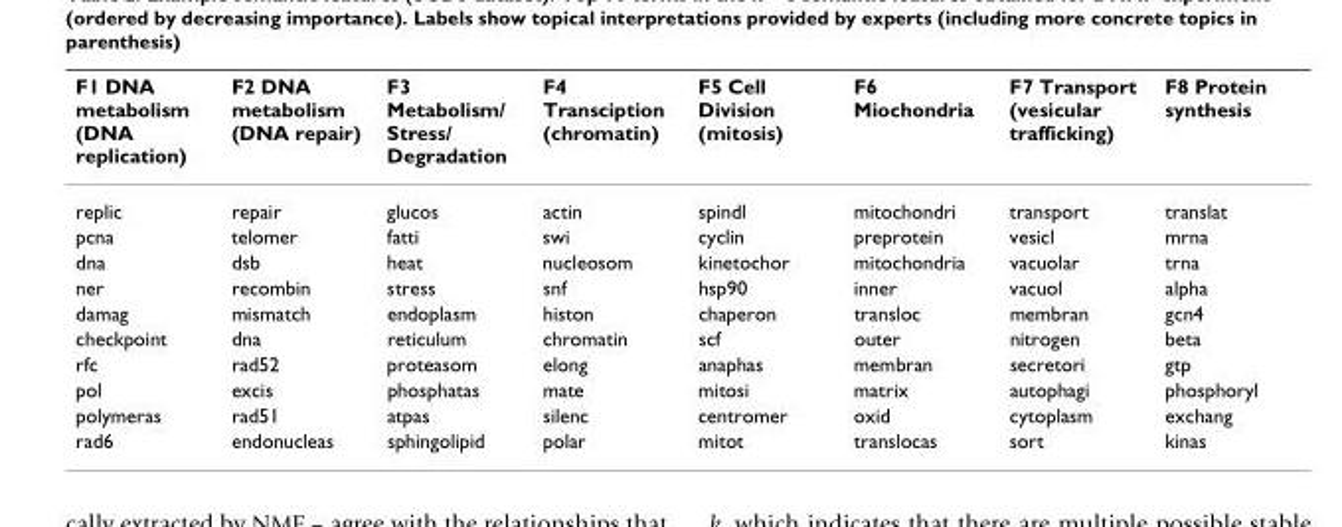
<table><thead><tr><td>F1 DNA metabolism (DNA replication)</td><td>F2 DNA metabolism (DNA repair)</td><td>F3 Metabolism/ Stress/ Degradation</td><td>F4 Transciption (chromatin)</td><td>F5 Cell Division (mitosis)</td><td>F6 Miochondria</td><td>F7 Transport (vesicular trafficking)</td><td>F8 Protein synthesis</td></tr></thead><tbody><tr><td>replic</td><td>repair</td><td>glucos</td><td>actin</td><td>spindl</td><td>mitochondri</td><td>transport</td><td>translat</td></tr><tr><td>pcna</td><td>telomer</td><td>fatti</td><td>swi</td><td>cyclin</td><td>preprotein</td><td>vesicl</td><td>mrna</td></tr><tr><td>dna</td><td>dsb</td><td>heat</td><td>nucleosom</td><td>kinetochor</td><td>mitochondria</td><td>vacuolar</td><td>trna</td></tr><tr><td>ner</td><td>recombin</td><td>stress</td><td>snf</td><td>hsp90</td><td>inner</td><td>vacuol</td><td>alpha</td></tr><tr><td>damag</td><td>mismatch</td><td>endoplasm</td><td>histon</td><td>chaperon</td><td>transloc</td><td>membran</td><td>gcn4</td></tr><tr><td>checkpoint</td><td>dna</td><td>reticulum</td><td>chromatin</td><td>scf</td><td>outer</td><td>nitrogen</td><td>beta</td></tr><tr><td>rfc</td><td>rad52</td><td>proteasom</td><td>elong</td><td>anaphas</td><td>membran</td><td>secretori</td><td>gtp</td></tr><tr><td>pol</td><td>excis</td><td>phosphatas</td><td>mate</td><td>mitosi</td><td>matrix</td><td>autophagi</td><td>phosphoryl</td></tr><tr><td>polymeras</td><td>rad51</td><td>atpas</td><td>silenc</td><td>centromer</td><td>oxid</td><td>cytoplasm</td><td>exchang</td></tr><tr><td>rad6</td><td>endonucleas</td><td>sphingolipid</td><td>polar</td><td>mitot</td><td>translocas</td><td>sort</td><td>kinas</td></tr></tbody></table>